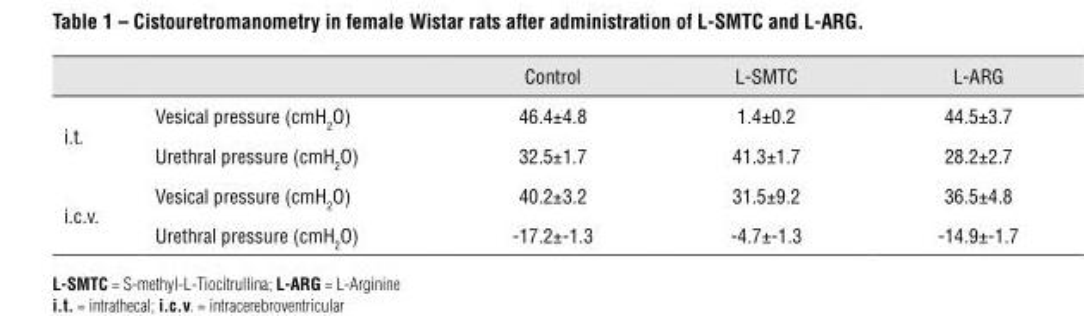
<table><thead><tr><td></td><td></td><td>Control</td><td>L-SMTC</td><td>L-ARG</td></tr></thead><tbody><tr><td rowspan="2">i.t.</td><td>Vesical pressure (cmH<sub>2</sub>O)</td><td>46.4±4.8</td><td>1.4±0.2</td><td>44.5±3.7</td></tr><tr><td>Urethral pressure (cmH<sub>2</sub>O)</td><td>32.5±1.7</td><td>41.3±1.7</td><td>28.2±2.7</td></tr><tr><td rowspan="2">i.c.v.</td><td>Vesical pressure (cmH<sub>2</sub>O)</td><td>40.2±3.2</td><td>31.5±9.2</td><td>36.5±4.8</td></tr><tr><td>Urethral pressure (cmH<sub>2</sub>O)</td><td>-17.2±-1.3</td><td>-4.7±-1.3</td><td>-14.9±-1.7</td></tr></tbody></table>